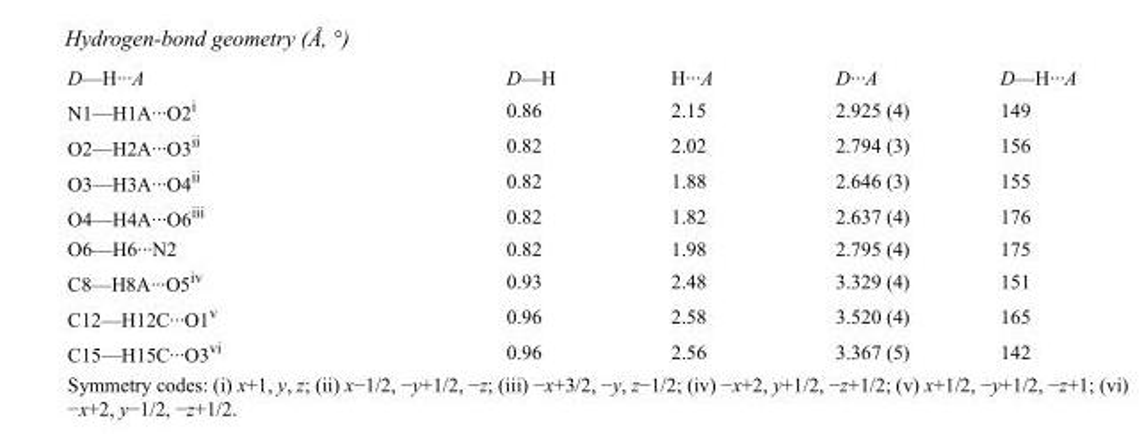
<table><tbody><tr><td>D—H···A</td><td>D—H</td><td>H···A</td><td>D···A</td><td>D—H···A</td></tr><tr><td>N1—H1A···O2<sup>i</sup></td><td>0.86</td><td>2.15</td><td>2.925 (4)</td><td>149</td></tr><tr><td>O2—H2A···O3<sup>ii</sup></td><td>0.82</td><td>2.02</td><td>2.794 (3)</td><td>156</td></tr><tr><td>O3—H3A···O4<sup>ii</sup></td><td>0.82</td><td>1.88</td><td>2.646 (3)</td><td>155</td></tr><tr><td>O4—H4A···O6<sup>iii</sup></td><td>0.82</td><td>1.82</td><td>2.637 (4)</td><td>176</td></tr><tr><td>O6—H6···N2</td><td>0.82</td><td>1.98</td><td>2.795 (4)</td><td>175</td></tr><tr><td>C8—H8A···O5<sup>iv</sup></td><td>0.93</td><td>2.48</td><td>3.329 (4)</td><td>151</td></tr><tr><td>C12—H12C···O1<sup>v</sup></td><td>0.96</td><td>2.58</td><td>3.520 (4)</td><td>165</td></tr><tr><td>C15—H15C···O3<sup>vi</sup></td><td>0.96</td><td>2.56</td><td>3.367 (5)</td><td>142</td></tr></tbody></table>